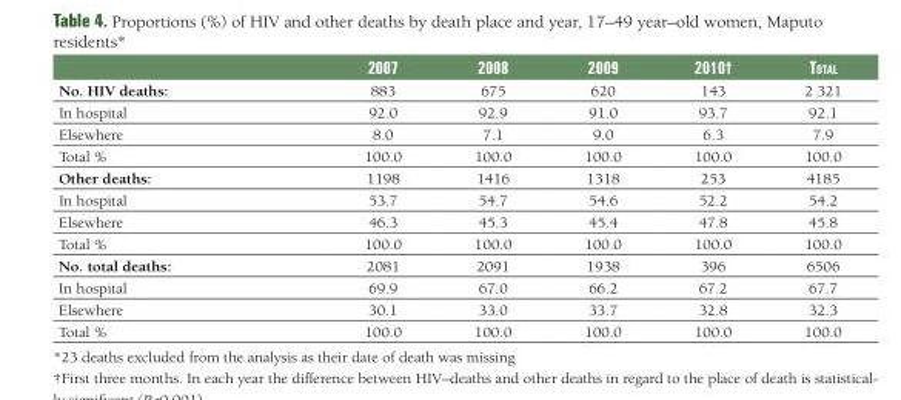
<table><thead><tr><td></td><td>2007</td><td>2008</td><td>2009</td><td>2010†</td><td>total</td></tr></thead><tbody><tr><td>No. HIV deaths:</td><td>883</td><td>675</td><td>620</td><td>143</td><td>2 321</td></tr><tr><td>In hospital</td><td>92.0</td><td>92.9</td><td>91.0</td><td>93.7</td><td>92.1</td></tr><tr><td>Elsewhere</td><td>8.0</td><td>7.1</td><td>9.0</td><td>6.3</td><td>7.9</td></tr><tr><td>Total %</td><td>100.0</td><td>100.0</td><td>100.0</td><td>100.0</td><td>100.0</td></tr><tr><td>Other deaths:</td><td>1198</td><td>1416</td><td>1318</td><td>253</td><td>4185</td></tr><tr><td>In hospital</td><td>53.7</td><td>54.7</td><td>54.6</td><td>52.2</td><td>54.2</td></tr><tr><td>Elsewhere</td><td>46.3</td><td>45.3</td><td>45.4</td><td>47.8</td><td>45.8</td></tr><tr><td>Total %</td><td>100.0</td><td>100.0</td><td>100.0</td><td>100.0</td><td>100.0</td></tr><tr><td>No. total deaths:</td><td>2081</td><td>2091</td><td>1938</td><td>396</td><td>6506</td></tr><tr><td>In hospital</td><td>69.9</td><td>67.0</td><td>66.2</td><td>67.2</td><td>67.7</td></tr><tr><td>Elsewhere</td><td>30.1</td><td>33.0</td><td>33.7</td><td>32.8</td><td>32.3</td></tr><tr><td>Total %</td><td>100.0</td><td>100.0</td><td>100.0</td><td>100.0</td><td>100.0</td></tr></tbody></table>